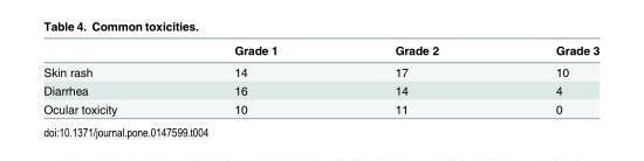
<table><thead><tr><td></td><td>Grade 1</td><td>Grade 2</td><td>Grade 3</td></tr></thead><tbody><tr><td>Skin rash</td><td>14</td><td>17</td><td>10</td></tr><tr><td>Diarrhea</td><td>16</td><td>14</td><td>4</td></tr><tr><td>Ocular toxicity</td><td>10</td><td>11</td><td>0</td></tr></tbody></table>